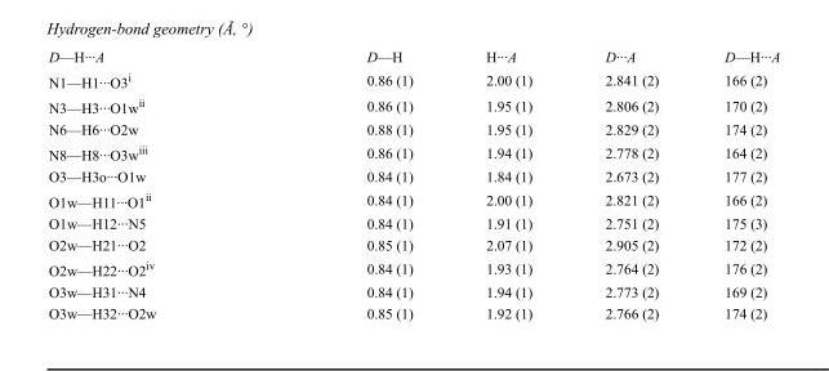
<table><tbody><tr><td>D—H···A</td><td>D—H</td><td>H···A</td><td>D···A</td><td>D—H···A</td></tr><tr><td>N1—H1···O3<sup>i</sup></td><td>0.86 (1)</td><td>2.00 (1)</td><td>2.841 (2)</td><td>166 (2)</td></tr><tr><td>N3—H3···O1w<sup>ii</sup></td><td>0.86 (1)</td><td>1.95 (1)</td><td>2.806 (2)</td><td>170 (2)</td></tr><tr><td>N6—H6···O2w</td><td>0.88 (1)</td><td>1.95 (1)</td><td>2.829 (2)</td><td>174 (2)</td></tr><tr><td>N8—H8···O3w<sup>iii</sup></td><td>0.86 (1)</td><td>1.94 (1)</td><td>2.778 (2)</td><td>164 (2)</td></tr><tr><td>O3—H3o···O1w</td><td>0.84 (1)</td><td>1.84 (1)</td><td>2.673 (2)</td><td>177 (2)</td></tr><tr><td>O1w—H11···O1<sup>ii</sup></td><td>0.84 (1)</td><td>2.00 (1)</td><td>2.821 (2)</td><td>166 (2)</td></tr><tr><td>O1w—H12···N5</td><td>0.84 (1)</td><td>1.91 (1)</td><td>2.751 (2)</td><td>175 (3)</td></tr><tr><td>O2w—H21···O2</td><td>0.85 (1)</td><td>2.07 (1)</td><td>2.905 (2)</td><td>172 (2)</td></tr><tr><td>O2w—H22···O2<sup>iv</sup></td><td>0.84 (1)</td><td>1.93 (1)</td><td>2.764 (2)</td><td>176 (2)</td></tr><tr><td>O3w—H31···N4</td><td>0.84 (1)</td><td>1.94 (1)</td><td>2.773 (2)</td><td>169 (2)</td></tr><tr><td>O3w—H32···O2w</td><td>0.85 (1)</td><td>1.92 (1)</td><td>2.766 (2)</td><td>174 (2)</td></tr></tbody></table>